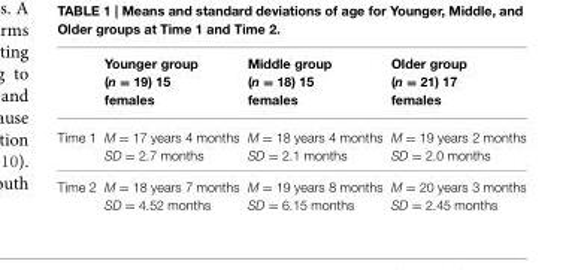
<table><thead><tr><td></td><td>Younger group (n = 19) 15 females</td><td>Middle group (n = 18) 15 females</td><td>Older group (n = 21) 17 females</td></tr></thead><tbody><tr><td>Time 1</td><td>M = 17 years 4 months SD = 2.7 months</td><td>M = 18 years 4 months SD = 2.1 months</td><td>M = 19 years 2 months SD = 2.0 months</td></tr><tr><td>Time 2</td><td>M = 18 years 7 months SD = 4.52 months</td><td>M = 19 years 8 months SD = 6.15 months</td><td>M = 20 years 3 months SD = 2.45 months</td></tr></tbody></table>